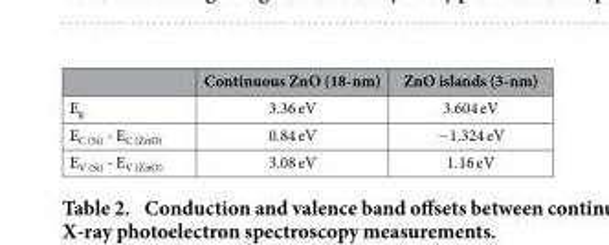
<table><thead><tr><td></td><td>Continuous ZnO (18-nm)</td><td>ZnO islands (3-nm)</td></tr></thead><tbody><tr><td>E<sub>g</sub></td><td>3.36 eV</td><td>3.604 eV</td></tr><tr><td>E<sub>C (Si)</sub> - E<sub>C (ZnO)</sub></td><td>0.84 eV</td><td>− 1.324 eV</td></tr><tr><td>E<sub>V (Si)</sub> - E<sub>V (ZnO)</sub></td><td>3.08 eV</td><td>1.16 eV</td></tr></tbody></table>